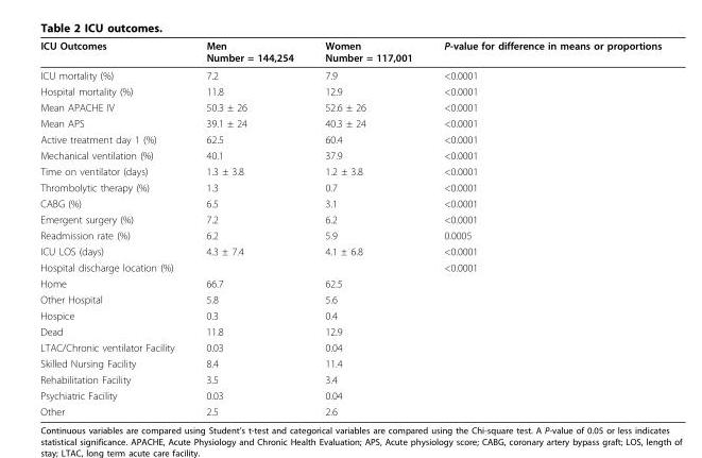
<table><thead><tr><td>ICU Outcomes</td><td>Men Number = 144,254</td><td>Women Number = 117,001</td><td>P-value for difference in means or proportions</td></tr></thead><tbody><tr><td>ICU mortality (%)</td><td>7.2</td><td>7.9</td><td>&lt;0.0001</td></tr><tr><td>Hospital mortality (%)</td><td>11.8</td><td>12.9</td><td>&lt;0.0001</td></tr><tr><td>Mean APACHE IV</td><td>50.3 ± 26</td><td>52.6 ± 26</td><td>&lt;0.0001</td></tr><tr><td>Mean APS</td><td>39.1 ± 24</td><td>40.3 ± 24</td><td>&lt;0.0001</td></tr><tr><td>Active treatment day 1 (%)</td><td>62.5</td><td>60.4</td><td>&lt;0.0001</td></tr><tr><td>Mechanical ventilation (%)</td><td>40.1</td><td>37.9</td><td>&lt;0.0001</td></tr><tr><td>Time on ventilator (days)</td><td>1.3 ± 3.8</td><td>1.2 ± 3.8</td><td>&lt;0.0001</td></tr><tr><td>Thrombolytic therapy (%)</td><td>1.3</td><td>0.7</td><td>&lt;0.0001</td></tr><tr><td>CABG (%)</td><td>6.5</td><td>3.1</td><td>&lt;0.0001</td></tr><tr><td>Emergent surgery (%)</td><td>7.2</td><td>6.2</td><td>&lt;0.0001</td></tr><tr><td>Readmission rate (%)</td><td>6.2</td><td>5.9</td><td>0.0005</td></tr><tr><td>ICU LOS (days)</td><td>4.3 ± 7.4</td><td>4.1 ± 6.8</td><td>&lt;0.0001</td></tr><tr><td>Hospital discharge location (%)</td><td></td><td></td><td>&lt;0.0001</td></tr><tr><td>Home</td><td>66.7</td><td>62.5</td><td></td></tr><tr><td>Other Hospital</td><td>5.8</td><td>5.6</td><td></td></tr><tr><td>Hospice</td><td>0.3</td><td>0.4</td><td></td></tr><tr><td>Dead</td><td>11.8</td><td>12.9</td><td></td></tr><tr><td>LTAC/Chronic ventilator Facility</td><td>0.03</td><td>0.04</td><td></td></tr><tr><td>Skilled Nursing Facility</td><td>8.4</td><td>11.4</td><td></td></tr><tr><td>Rehabilitation Facility</td><td>3.5</td><td>3.4</td><td></td></tr><tr><td>Psychiatric Facility</td><td>0.03</td><td>0.04</td><td></td></tr><tr><td>Other</td><td>2.5</td><td>2.6</td><td></td></tr></tbody></table>